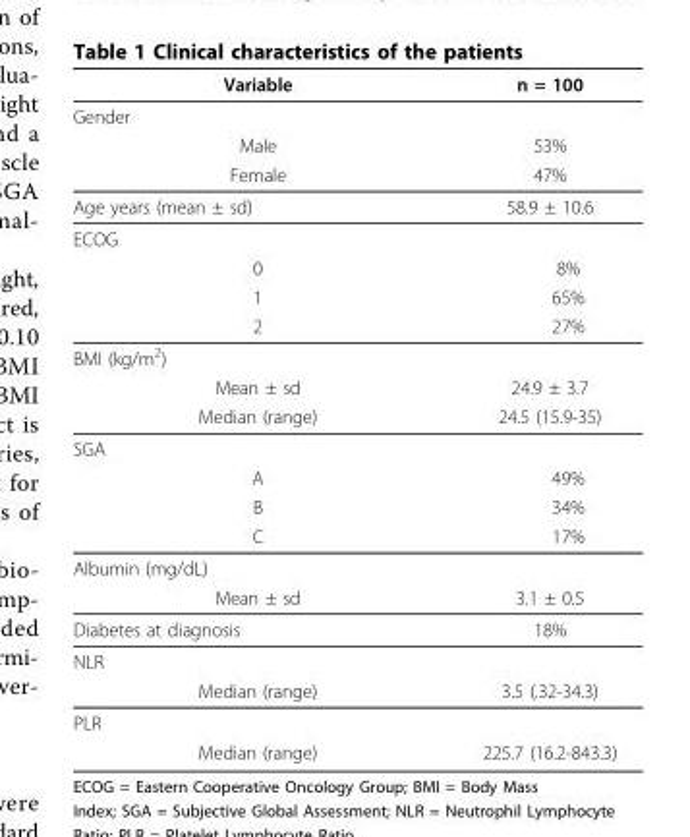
<table><thead><tr><td>Variable</td><td>n = 100</td></tr></thead><tbody><tr><td colspan="2">Gender</td></tr><tr><td>Male</td><td>53%</td></tr><tr><td>Female</td><td>47%</td></tr><tr><td>Age years (mean ± sd)</td><td>58.9 ± 10.6</td></tr><tr><td colspan="2">ECOG</td></tr><tr><td>0</td><td>8%</td></tr><tr><td>1</td><td>65%</td></tr><tr><td>2</td><td>27%</td></tr><tr><td colspan="2">BMI (kg/m<sup>2</sup>)</td></tr><tr><td>Mean ± sd</td><td>24.9 ± 3.7</td></tr><tr><td>Median (range)</td><td>24.5 (15.9-35)</td></tr><tr><td colspan="2">SGA</td></tr><tr><td>A</td><td>49%</td></tr><tr><td>B</td><td>34%</td></tr><tr><td>C</td><td>17%</td></tr><tr><td colspan="2">Albumin (mg/dL)</td></tr><tr><td>Mean ± sd</td><td>3.1 ± 0.5</td></tr><tr><td>Diabetes at diagnosis</td><td>18%</td></tr><tr><td colspan="2">NLR</td></tr><tr><td>Median (range)</td><td>3.5 (.32-34.3)</td></tr><tr><td colspan="2">PLR</td></tr><tr><td>Median (range)</td><td>225.7 (16.2-843.3)</td></tr></tbody></table>